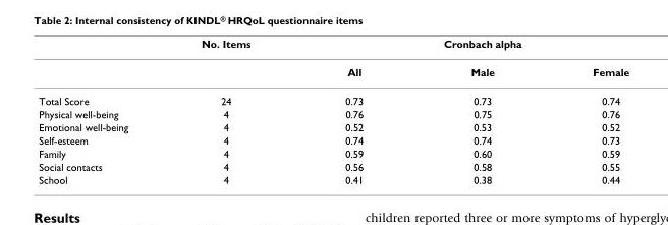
<table><thead><tr><td rowspan="2"></td><td rowspan="2">No. Items</td><td colspan="3">Cronbach alpha</td></tr><tr><td>All</td><td>Male</td><td>Female</td></tr></thead><tbody><tr><td>Total Score</td><td>24</td><td>0.73</td><td>0.73</td><td>0.74</td></tr><tr><td>Physical well-being</td><td>4</td><td>0.76</td><td>0.75</td><td>0.76</td></tr><tr><td>Emotional well-being</td><td>4</td><td>0.52</td><td>0.53</td><td>0.52</td></tr><tr><td>Self-esteem</td><td>4</td><td>0.74</td><td>0.74</td><td>0.73</td></tr><tr><td>Family</td><td>4</td><td>0.59</td><td>0.60</td><td>0.59</td></tr><tr><td>Social contacts</td><td>4</td><td>0.56</td><td>0.58</td><td>0.55</td></tr><tr><td>School</td><td>4</td><td>0.41</td><td>0.38</td><td>0.44</td></tr></tbody></table>